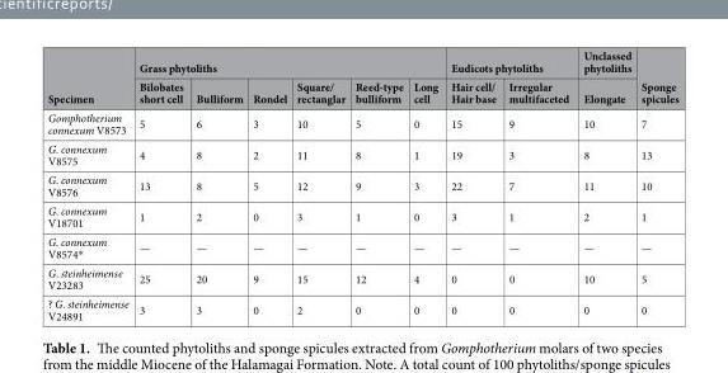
<table><thead><tr><td rowspan="2">Specimen</td><td colspan="6">Grass phytoliths</td><td colspan="2">Eudicots phytoliths</td><td rowspan="2">Unclassed phytoliths Elongate</td><td rowspan="2">Sponge spicules</td></tr><tr><td>Bilobates short cell</td><td>Bulliform</td><td>Rondel</td><td>Square/ rectanglar</td><td>Reed-type bulliform</td><td>Long cell</td><td>Hair cell/ Hair base</td><td>Irregular multifaceted</td></tr></thead><tbody><tr><td>Gomphotherium connexum V8573</td><td>5</td><td>6</td><td>3</td><td>10</td><td>5</td><td>0</td><td>15</td><td>9</td><td>10</td><td>7</td></tr><tr><td>G. connexum V8575</td><td>4</td><td>8</td><td>2</td><td>11</td><td>8</td><td>1</td><td>19</td><td>3</td><td>8</td><td>13</td></tr><tr><td>G. connexum V8576</td><td>13</td><td>8</td><td>5</td><td>12</td><td>9</td><td>3</td><td>22</td><td>7</td><td>11</td><td>10</td></tr><tr><td>G. connexum V18701</td><td>1</td><td>2</td><td>0</td><td>3</td><td>1</td><td>0</td><td>3</td><td>1</td><td>2</td><td>1</td></tr><tr><td>G. connexum V8574*</td><td>—</td><td>—</td><td>—</td><td>—</td><td>—</td><td>—</td><td>—</td><td>—</td><td>—</td><td>—</td></tr><tr><td>G. steinheimense V23283</td><td>25</td><td>20</td><td>9</td><td>15</td><td>12</td><td>4</td><td>0</td><td>0</td><td>10</td><td>5</td></tr><tr><td>? G. steinheimense V24891</td><td>3</td><td>3</td><td>0</td><td>2</td><td>0</td><td>0</td><td>0</td><td>0</td><td>0</td><td>0</td></tr></tbody></table>